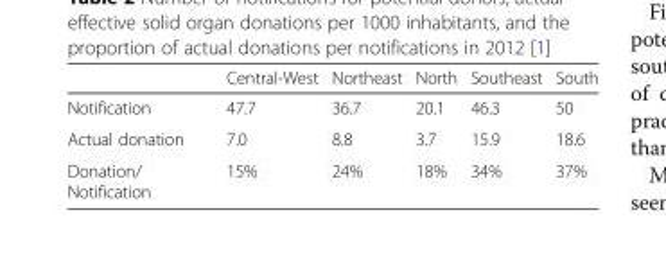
<table><thead><tr><td></td><td>Central-West</td><td>Northeast</td><td>North</td><td>Southeast</td><td>South</td></tr></thead><tbody><tr><td>Notification</td><td>47.7</td><td>36.7</td><td>20.1</td><td>46.3</td><td>50</td></tr><tr><td>Actual donation</td><td>7.0</td><td>8.8</td><td>3.7</td><td>15.9</td><td>18.6</td></tr><tr><td>Donation/ Notification</td><td>15%</td><td>24%</td><td>18%</td><td>34%</td><td>37%</td></tr></tbody></table>